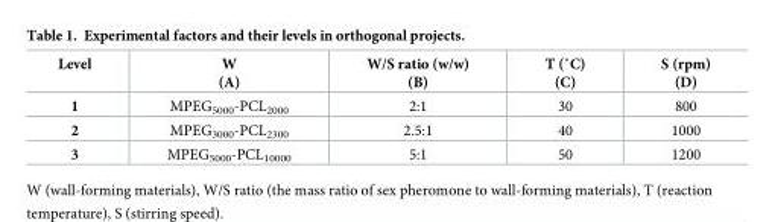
<table><thead><tr><td>Level</td><td>W (A)</td><td>W/S ratio (w/w) (B)</td><td>T (˚C) (C)</td><td>S (rpm) (D)</td></tr></thead><tbody><tr><td>1</td><td>MPEG<sub>5000</sub>-PCL<sub>2000</sub></td><td>2:1</td><td>30</td><td>800</td></tr><tr><td>2</td><td>MPEG<sub>3000</sub>-PCL<sub>2300</sub></td><td>2.5:1</td><td>40</td><td>1000</td></tr><tr><td>3</td><td>MPEG<sub>5000</sub>-PCL<sub>10000</sub></td><td>5:1</td><td>50</td><td>1200</td></tr></tbody></table>